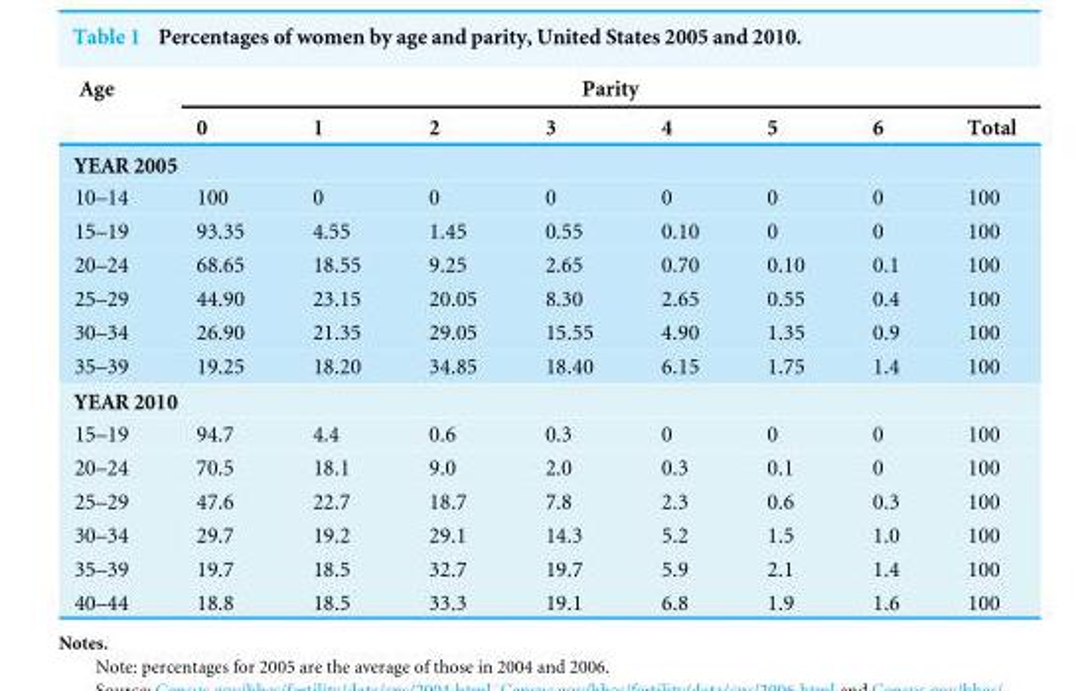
<table><thead><tr><td rowspan="2">Age</td><td colspan="8">Parity</td></tr><tr><td>0</td><td>1</td><td>2</td><td>3</td><td>4</td><td>5</td><td>6</td><td>Total</td></tr></thead><tbody><tr><td colspan="9">YEAR 2005</td></tr><tr><td>10–14</td><td>100</td><td>0</td><td>0</td><td>0</td><td>0</td><td>0</td><td>0</td><td>100</td></tr><tr><td>15–19</td><td>93.35</td><td>4.55</td><td>1.45</td><td>0.55</td><td>0.10</td><td>0</td><td>0</td><td>100</td></tr><tr><td>20–24</td><td>68.65</td><td>18.55</td><td>9.25</td><td>2.65</td><td>0.70</td><td>0.10</td><td>0.1</td><td>100</td></tr><tr><td>25–29</td><td>44.90</td><td>23.15</td><td>20.05</td><td>8.30</td><td>2.65</td><td>0.55</td><td>0.4</td><td>100</td></tr><tr><td>30–34</td><td>26.90</td><td>21.35</td><td>29.05</td><td>15.55</td><td>4.90</td><td>1.35</td><td>0.9</td><td>100</td></tr><tr><td>35–39</td><td>19.25</td><td>18.20</td><td>34.85</td><td>18.40</td><td>6.15</td><td>1.75</td><td>1.4</td><td>100</td></tr><tr><td colspan="9">YEAR 2010</td></tr><tr><td>15–19</td><td>94.7</td><td>4.4</td><td>0.6</td><td>0.3</td><td>0</td><td>0</td><td>0</td><td>100</td></tr><tr><td>20–24</td><td>70.5</td><td>18.1</td><td>9.0</td><td>2.0</td><td>0.3</td><td>0.1</td><td>0</td><td>100</td></tr><tr><td>25–29</td><td>47.6</td><td>22.7</td><td>18.7</td><td>7.8</td><td>2.3</td><td>0.6</td><td>0.3</td><td>100</td></tr><tr><td>30–34</td><td>29.7</td><td>19.2</td><td>29.1</td><td>14.3</td><td>5.2</td><td>1.5</td><td>1.0</td><td>100</td></tr><tr><td>35–39</td><td>19.7</td><td>18.5</td><td>32.7</td><td>19.7</td><td>5.9</td><td>2.1</td><td>1.4</td><td>100</td></tr><tr><td>40–44</td><td>18.8</td><td>18.5</td><td>33.3</td><td>19.1</td><td>6.8</td><td>1.9</td><td>1.6</td><td>100</td></tr></tbody></table>